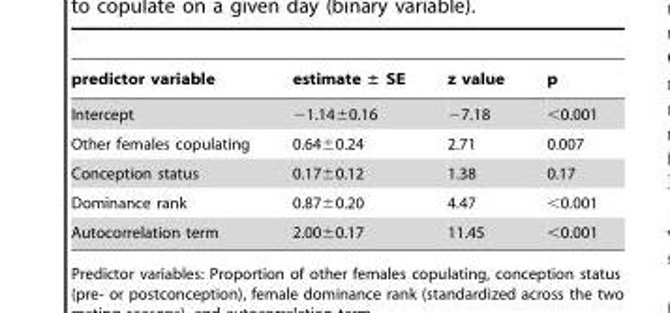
<table><thead><tr><td>predictor variable</td><td>estimate ± SE</td><td>z value</td><td>p</td></tr></thead><tbody><tr><td>Intercept</td><td>−1.14±0.16</td><td>−7.18</td><td>&lt;0.001</td></tr><tr><td>Other females copulating</td><td>0.64±0.24</td><td>2.71</td><td>0.007</td></tr><tr><td>Conception status</td><td>0.17±0.12</td><td>1.38</td><td>0.17</td></tr><tr><td>Dominance rank</td><td>0.87±0.20</td><td>4.47</td><td>&lt;0.001</td></tr><tr><td>Autocorrelation term</td><td>2.00±0.17</td><td>11.45</td><td>&lt;0.001</td></tr></tbody></table>